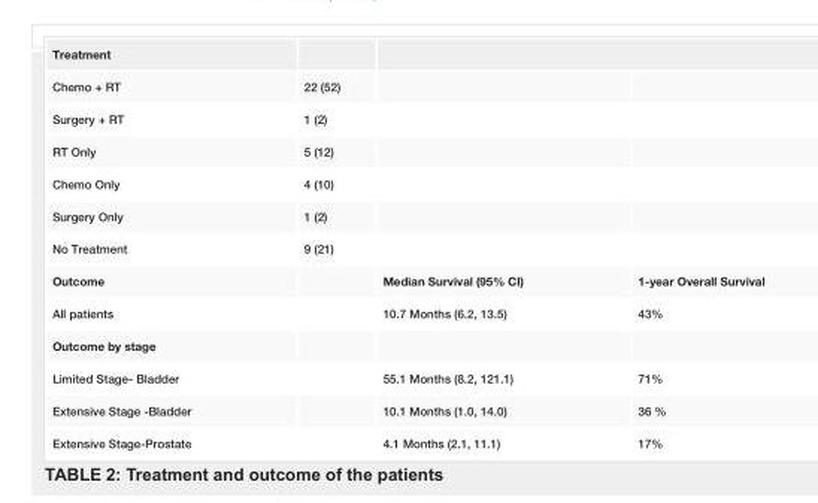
<table><tbody><tr><td colspan="4">Treatment</td></tr><tr><td>Chemo + RT</td><td>22 (52)</td><td></td><td></td></tr><tr><td>Surgery + RT</td><td>1 (2)</td><td></td><td></td></tr><tr><td>RT Only</td><td>5 (12)</td><td></td><td></td></tr><tr><td>Chemo Only</td><td>4 (10)</td><td></td><td></td></tr><tr><td>Surgery Only</td><td>1 (2)</td><td></td><td></td></tr><tr><td>No Treatment</td><td>9 (21)</td><td></td><td></td></tr><tr><td>Outcome</td><td></td><td>Median Survival (95% CI)</td><td>1-year Overall Survival</td></tr><tr><td>All patients</td><td></td><td>10.7 Months (6.2, 13.5)</td><td>43%</td></tr><tr><td colspan="4">Outcome by stage</td></tr><tr><td>Limited Stage- Bladder</td><td></td><td>55.1 Months (8.2, 121.1)</td><td>71%</td></tr><tr><td>Extensive Stage -Bladder</td><td></td><td>10.1 Months (1.0, 14.0)</td><td>36 %</td></tr><tr><td>Extensive Stage-Prostate</td><td></td><td>4.1 Months (2.1, 11.1)</td><td>17%</td></tr></tbody></table>